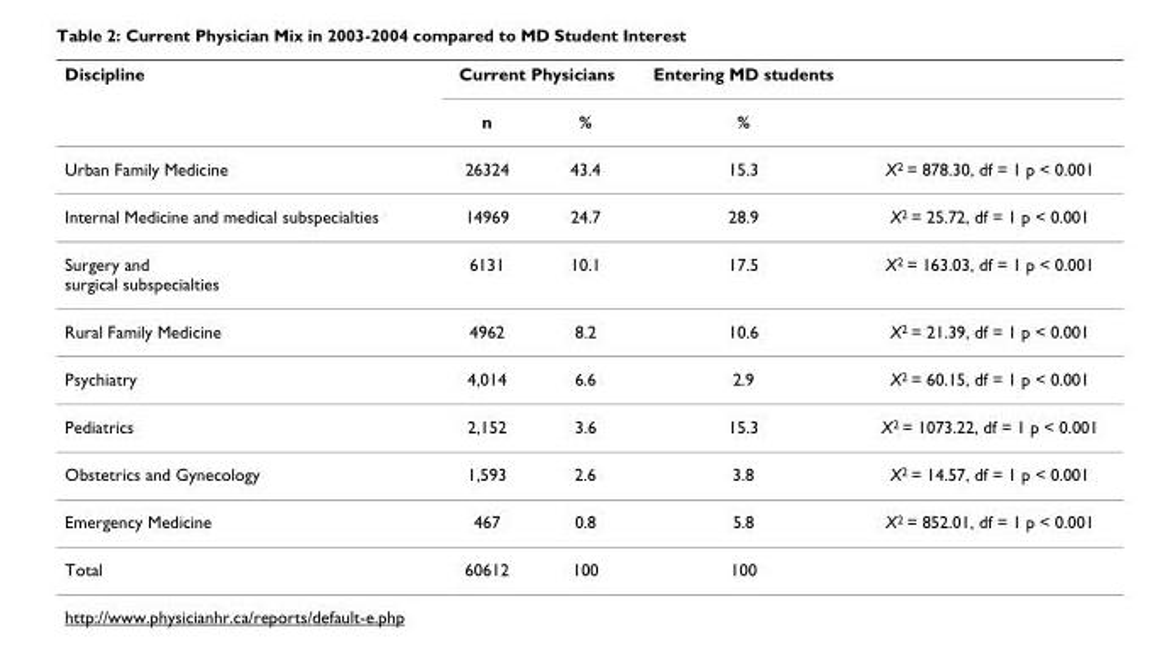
<table><thead><tr><td rowspan="2">Discipline</td><td colspan="2">Current Physicians</td><td rowspan="2">Entering MD students %</td><td rowspan="2"></td></tr><tr><td>n</td><td>%</td></tr></thead><tbody><tr><td>Urban Family Medicine</td><td>26324</td><td>43.4</td><td>15.3</td><td>X<sup>2</sup> = 878.30, df = 1 p &lt; 0.001</td></tr><tr><td>Internal Medicine and medical subspecialties</td><td>14969</td><td>24.7</td><td>28.9</td><td>X<sup>2</sup> = 25.72, df = 1 p &lt; 0.001</td></tr><tr><td>Surgery and surgical subspecialties</td><td>6131</td><td>10.1</td><td>17.5</td><td>X<sup>2</sup> = 163.03, df = 1 p &lt; 0.001</td></tr><tr><td>Rural Family Medicine</td><td>4962</td><td>8.2</td><td>10.6</td><td>X<sup>2</sup> = 21.39, df = 1 p &lt; 0.001</td></tr><tr><td>Psychiatry</td><td>4,014</td><td>6.6</td><td>2.9</td><td>X<sup>2</sup> = 60.15, df = 1 p &lt; 0.001</td></tr><tr><td>Pediatrics</td><td>2,152</td><td>3.6</td><td>15.3</td><td>X<sup>2</sup> = 1073.22, df = 1 p &lt; 0.001</td></tr><tr><td>Obstetrics and Gynecology</td><td>1,593</td><td>2.6</td><td>3.8</td><td>X<sup>2</sup> = 14.57, df = 1 p &lt; 0.001</td></tr><tr><td>Emergency Medicine</td><td>467</td><td>0.8</td><td>5.8</td><td>X<sup>2</sup> = 852.01, df = 1 p &lt; 0.001</td></tr><tr><td>Total</td><td>60612</td><td>100</td><td>100</td><td></td></tr></tbody></table>